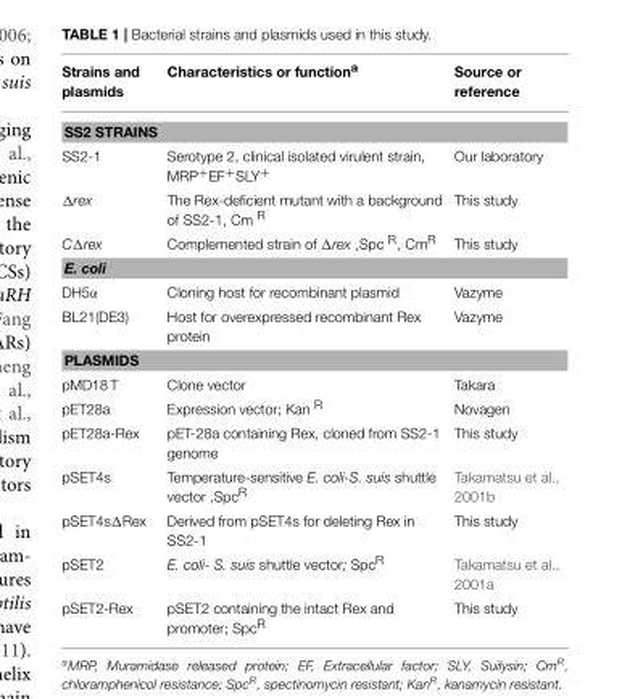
<table><thead><tr><td>Strains and plasmids</td><td>Characteristics or function<sup>a</sup></td><td>Source or reference</td></tr></thead><tbody><tr><td colspan="3">SS2 STRAINS</td></tr><tr><td>SS2-1</td><td>Serotype 2, clinical isolated virulent strain, MRP<sup>+</sup>EF<sup>+</sup>SLY<sup>+</sup></td><td>Our laboratory</td></tr><tr><td>Δrex</td><td>The Rex-deficient mutant with a background of SS2-1, Cm <sup>R</sup></td><td>This study</td></tr><tr><td>CΔrex</td><td>Complemented strain of Δrex ,Spc <sup>R</sup>, Cm<sup>R</sup></td><td>This study</td></tr><tr><td colspan="3">E. coli</td></tr><tr><td>DH5α</td><td>Cloning host for recombinant plasmid</td><td>Vazyme</td></tr><tr><td>BL21(DE3)</td><td>Host for overexpressed recombinant Rex protein</td><td>Vazyme</td></tr><tr><td colspan="3">PLASMIDS</td></tr><tr><td>pMD18 T</td><td>Clone vector</td><td>Takara</td></tr><tr><td>pET28a</td><td>Expression vector; Kan <sup>R</sup></td><td>Novagen</td></tr><tr><td>pET28a-Rex</td><td>pET-28a containing Rex, cloned from SS2-1 genome</td><td>This study</td></tr><tr><td>pSET4s</td><td>Temperature-sensitive E. coli-S. suis shuttle vector ,Spc<sup>R</sup></td><td>Takamatsu et al., 2001b</td></tr><tr><td>pSET4sΔRex</td><td>Derived from pSET4s for deleting Rex in SS2-1</td><td>This study</td></tr><tr><td>pSET2</td><td>E. coli- S. suis shuttle vector; Spc<sup>R</sup></td><td>Takamatsu et al., 2001a</td></tr><tr><td>pSET2-Rex</td><td>pSET2 containing the intact Rex and promoter; Spc<sup>R</sup></td><td>This study</td></tr></tbody></table>